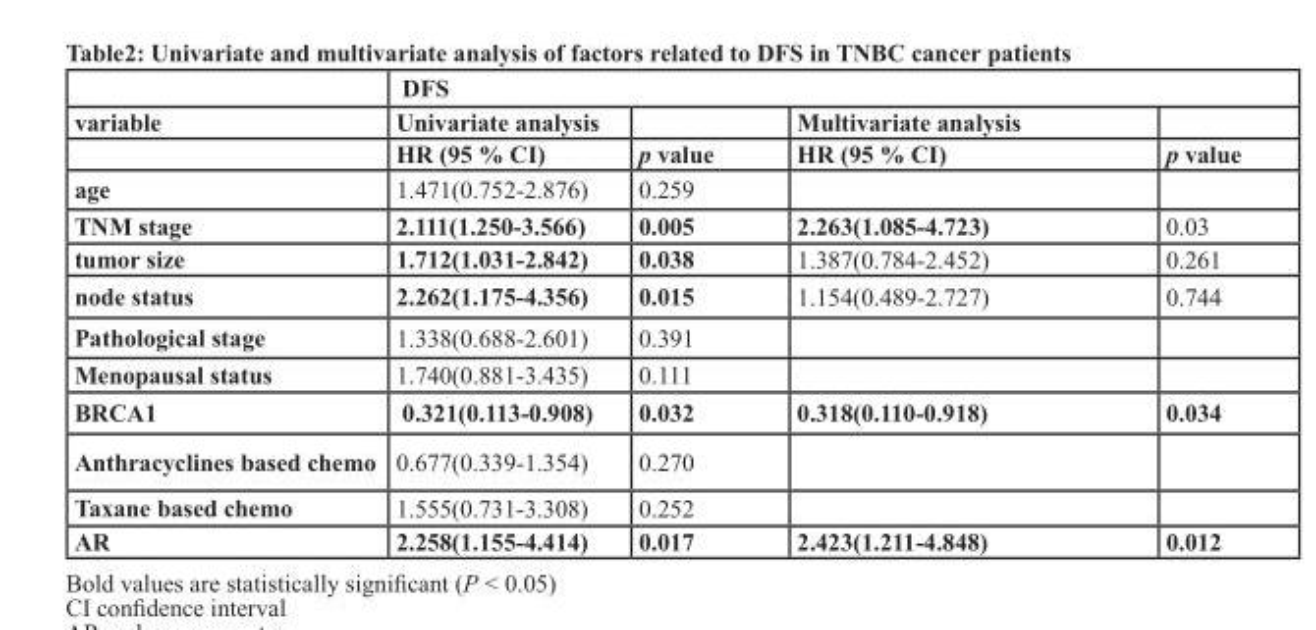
<table><thead><tr><td rowspan="3">variable</td><td colspan="4">DFS</td></tr><tr><td rowspan="2">Univariate analysis HR (95 % CI)</td><td rowspan="2">p value</td><td rowspan="2">Multivariate analysis HR (95 % CI)</td><td rowspan="2">p value</td></tr><tr></tr></thead><tbody><tr><td>age</td><td>1.471(0.752-2.876)</td><td>0.259</td><td></td><td></td></tr><tr><td>TNM stage</td><td>2.111(1.250-3.566)</td><td>0.005</td><td>2.263(1.085-4.723)</td><td>0.03</td></tr><tr><td>tumor size</td><td>1.712(1.031-2.842)</td><td>0.038</td><td>1.387(0.784-2.452)</td><td>0.261</td></tr><tr><td>node status</td><td>2.262(1.175-4.356)</td><td>0.015</td><td>1.154(0.489-2.727)</td><td>0.744</td></tr><tr><td>Pathological stage</td><td>1.338(0.688-2.601)</td><td>0.391</td><td></td><td></td></tr><tr><td>Menopausal status</td><td>1.740(0.881-3.435)</td><td>0.111</td><td></td><td></td></tr><tr><td>BRCA1</td><td>0.321(0.113-0.908)</td><td>0.032</td><td>0.318(0.110-0.918)</td><td>0.034</td></tr><tr><td>Anthracyclines based chemo</td><td>0.677(0.339-1.354)</td><td>0.270</td><td></td><td></td></tr><tr><td>Taxane based chemo</td><td>1.555(0.731-3.308)</td><td>0.252</td><td></td><td></td></tr><tr><td>AR</td><td>2.258(1.155-4.414)</td><td>0.017</td><td>2.423(1.211-4.848)</td><td>0.012</td></tr></tbody></table>